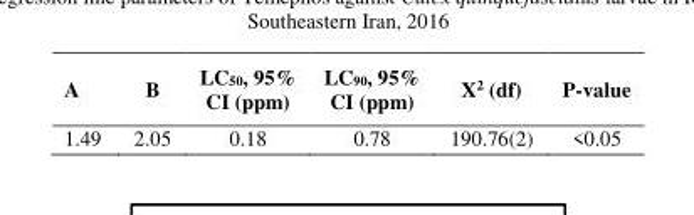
<table><thead><tr><td>A</td><td>B</td><td>LC<sub>50</sub>, 95% CI (ppm)</td><td>LC<sub>90</sub>, 95% CI (ppm)</td><td>X<sup>2</sup> (df)</td><td>P-value</td></tr></thead><tbody><tr><td>1.49</td><td>2.05</td><td>0.18</td><td>0.78</td><td>190.76(2)</td><td>&lt;0.05</td></tr></tbody></table>